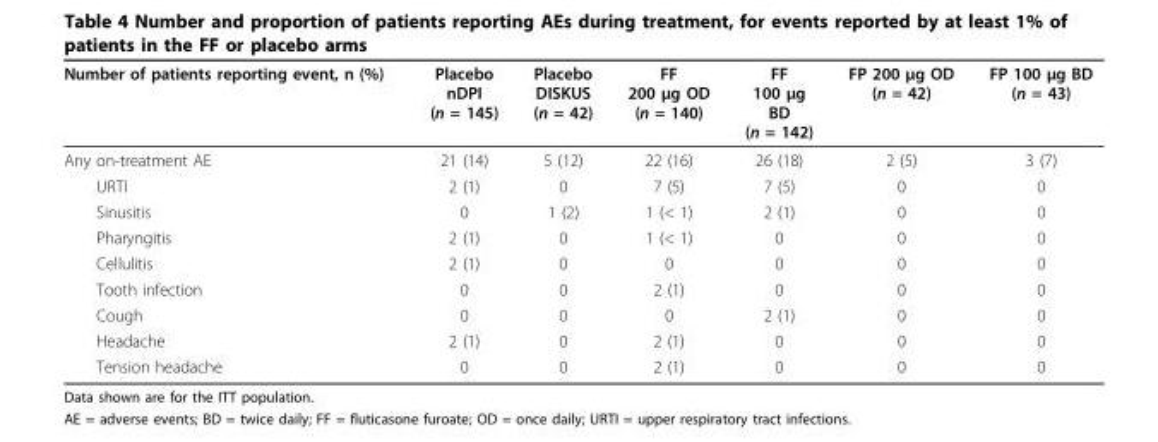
<table><thead><tr><td>Number of patients reporting event, n (%)</td><td>Placebo nDPI (n = 145)</td><td>Placebo DISKUS (n = 42)</td><td>FF 200 μg OD (n = 140)</td><td>FF 100 μg BD (n = 142)</td><td>FP 200 μg OD (n = 42)</td><td>FP 100 μg BD (n = 43)</td></tr></thead><tbody><tr><td>Any on-treatment AE</td><td>21 (14)</td><td>5 (12)</td><td>22 (16)</td><td>26 (18)</td><td>2 (5)</td><td>3 (7)</td></tr><tr><td>URTI</td><td>2 (1)</td><td>0</td><td>7 (5)</td><td>7 (5)</td><td>0</td><td>0</td></tr><tr><td>Sinusitis</td><td>0</td><td>1 (2)</td><td>1 (&lt; 1)</td><td>2 (1)</td><td>0</td><td>0</td></tr><tr><td>Pharyngitis</td><td>2 (1)</td><td>0</td><td>1 (&lt; 1)</td><td>0</td><td>0</td><td>0</td></tr><tr><td>Cellulitis</td><td>2 (1)</td><td>0</td><td>0</td><td>0</td><td>0</td><td>0</td></tr><tr><td>Tooth infection</td><td>0</td><td>0</td><td>2 (1)</td><td>0</td><td>0</td><td>0</td></tr><tr><td>Cough</td><td>0</td><td>0</td><td>0</td><td>2 (1)</td><td>0</td><td>0</td></tr><tr><td>Headache</td><td>2 (1)</td><td>0</td><td>2 (1)</td><td>0</td><td>0</td><td>0</td></tr><tr><td>Tension headache</td><td>0</td><td>0</td><td>2 (1)</td><td>0</td><td>0</td><td>0</td></tr></tbody></table>